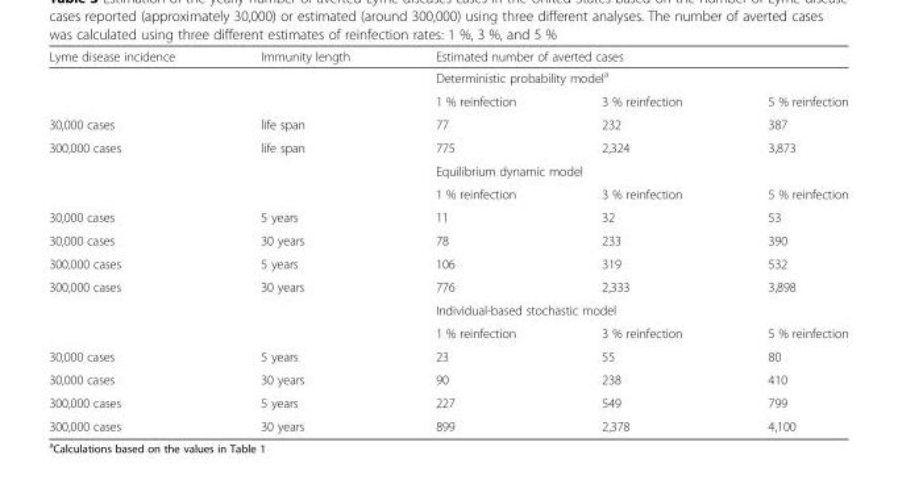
<table><thead><tr><td rowspan="3">Lyme disease incidence</td><td rowspan="3">Immunity length</td><td rowspan="2" colspan="3">Estimated number of averted cases Deterministic probability model<sup>a</sup></td></tr><tr></tr><tr><td>1 % reinfection</td><td>3 % reinfection</td><td>5 % reinfection</td></tr></thead><tbody><tr><td>30,000 cases</td><td>life span</td><td>77</td><td>232</td><td>387</td></tr><tr><td rowspan="3">300,000 cases</td><td>life span</td><td>775</td><td>2,324</td><td>3,873</td></tr><tr><td></td><td colspan="3">Equilibrium dynamic model</td></tr><tr><td></td><td>1 % reinfection</td><td>3 % reinfection</td><td>5 % reinfection</td></tr><tr><td>30,000 cases</td><td>5 years</td><td>11</td><td>32</td><td>53</td></tr><tr><td>30,000 cases</td><td>30 years</td><td>78</td><td>233</td><td>390</td></tr><tr><td>300,000 cases</td><td>5 years</td><td>106</td><td>319</td><td>532</td></tr><tr><td rowspan="3">300,000 cases</td><td>30 years</td><td>776</td><td>2,333</td><td>3,898</td></tr><tr><td></td><td colspan="3">Individual-based stochastic model</td></tr><tr><td></td><td>1 % reinfection</td><td>3 % reinfection</td><td>5 % reinfection</td></tr><tr><td>30,000 cases</td><td>5 years</td><td>23</td><td>55</td><td>80</td></tr><tr><td>30,000 cases</td><td>30 years</td><td>90</td><td>238</td><td>410</td></tr><tr><td>300,000 cases</td><td>5 years</td><td>227</td><td>549</td><td>799</td></tr><tr><td>300,000 cases</td><td>30 years</td><td>899</td><td>2,378</td><td>4,100</td></tr></tbody></table>